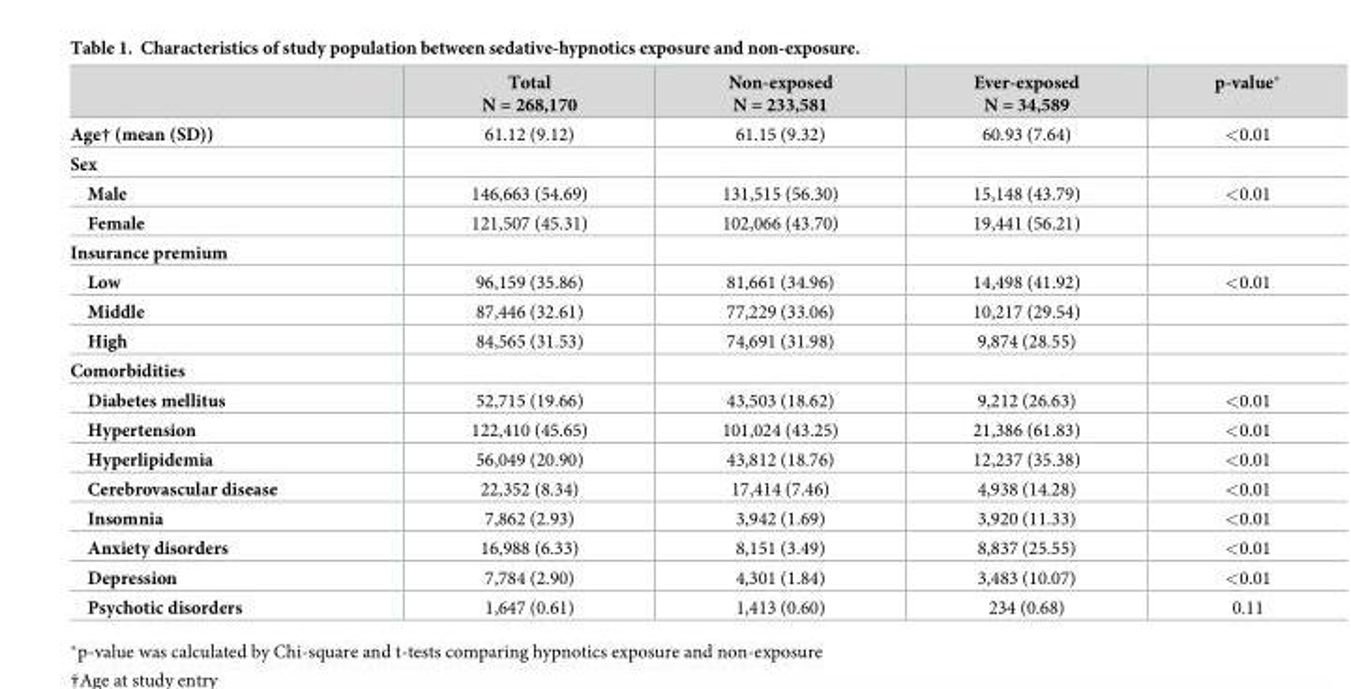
<table><thead><tr><td></td><td>Total N = 268,170</td><td>Non-exposed N = 233,581</td><td>Ever-exposed N = 34,589</td><td>p-value*</td></tr></thead><tbody><tr><td>Age† (mean (SD))</td><td>61.12 (9.12)</td><td>61.15 (9.32)</td><td>60.93 (7.64)</td><td>&lt;0.01</td></tr><tr><td colspan="5">Sex</td></tr><tr><td>Male</td><td>146,663 (54.69)</td><td>131,515 (56.30)</td><td>15,148 (43.79)</td><td>&lt;0.01</td></tr><tr><td>Female</td><td>121,507 (45.31)</td><td>102,066 (43.70)</td><td>19,441 (56.21)</td><td></td></tr><tr><td colspan="5">Insurance premium</td></tr><tr><td>Low</td><td>96,159 (35.86)</td><td>81,661 (34.96)</td><td>14,498 (41.92)</td><td>&lt;0.01</td></tr><tr><td>Middle</td><td>87,446 (32.61)</td><td>77,229 (33.06)</td><td>10,217 (29.54)</td><td></td></tr><tr><td>High</td><td>84,565 (31.53)</td><td>74,691 (31.98)</td><td>9,874 (28.55)</td><td></td></tr><tr><td colspan="5">Comorbidities</td></tr><tr><td>Diabetes mellitus</td><td>52,715 (19.66)</td><td>43,503 (18.62)</td><td>9,212 (26.63)</td><td>&lt;0.01</td></tr><tr><td>Hypertension</td><td>122,410 (45.65)</td><td>101,024 (43.25)</td><td>21,386 (61.83)</td><td>&lt;0.01</td></tr><tr><td>Hyperlipidemia</td><td>56,049 (20.90)</td><td>43,812 (18.76)</td><td>12,237 (35.38)</td><td>&lt;0.01</td></tr><tr><td>Cerebrovascular disease</td><td>22,352 (8.34)</td><td>17,414 (7.46)</td><td>4,938 (14.28)</td><td>&lt;0.01</td></tr><tr><td>Insomnia</td><td>7,862 (2.93)</td><td>3,942 (1.69)</td><td>3,920 (11.33)</td><td>&lt;0.01</td></tr><tr><td>Anxiety disorders</td><td>16,988 (6.33)</td><td>8,151 (3.49)</td><td>8,837 (25.55)</td><td>&lt;0.01</td></tr><tr><td>Depression</td><td>7,784 (2.90)</td><td>4,301 (1.84)</td><td>3,483 (10.07)</td><td>&lt;0.01</td></tr><tr><td>Psychotic disorders</td><td>1,647 (0.61)</td><td>1,413 (0.60)</td><td>234 (0.68)</td><td>0.11</td></tr></tbody></table>